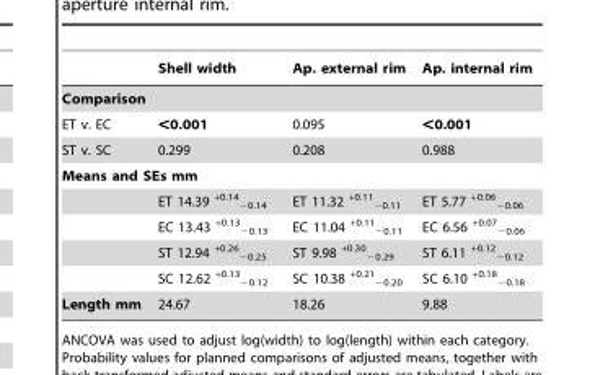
<table><thead><tr><td></td><td>Shell width</td><td>Ap. external rim</td><td>Ap. internal rim</td></tr></thead><tbody><tr><td colspan="4">Comparison</td></tr><tr><td>ET v. EC</td><td>&lt;0.001</td><td>0.095</td><td>&lt;0.001</td></tr><tr><td>ST v. SC</td><td>0.299</td><td>0.208</td><td>0.988</td></tr><tr><td colspan="4">Means and SEs mm</td></tr><tr><td></td><td>ET 14.39 <sup>+0.14</sup> <sub>−0.14</sub></td><td>ET 11.32 <sup>+0.11</sup> <sub>−0.11</sub></td><td>ET 5.77 <sup>+0.06</sup> <sub>−0.06</sub></td></tr><tr><td></td><td>EC 13.43 <sup>+0.13</sup> <sub>−0.13</sub></td><td>EC 11.04 <sup>+0.11</sup> <sub>−0.11</sub></td><td>EC 6.56 <sup>+0.07</sup> <sub>−0.06</sub></td></tr><tr><td></td><td>ST 12.94 <sup>+0.26</sup> <sub>−0.25</sub></td><td>ST 9.98 <sup>+0.30</sup> <sub>−0.29</sub></td><td>ST 6.11 <sup>+0.12</sup> <sub>−0.12</sub></td></tr><tr><td></td><td>SC 12.62 <sup>+0.13</sup> <sub>−0.12</sub></td><td>SC 10.38 <sup>+0.21</sup> <sub>−0.20</sub></td><td>SC 6.10 <sup>+0.18</sup> <sub>−0.18</sub></td></tr><tr><td>Length mm</td><td>24.67</td><td>18.26</td><td>9.88</td></tr></tbody></table>